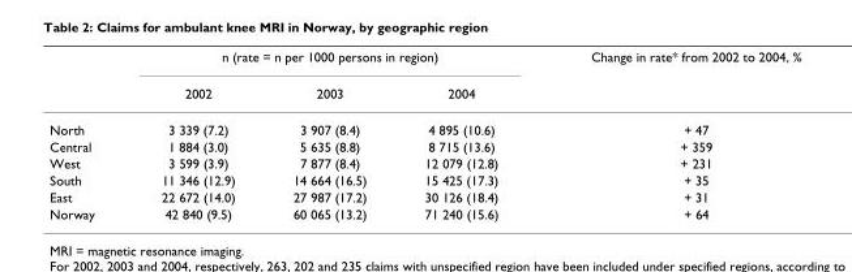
<table><thead><tr><td rowspan="2"></td><td colspan="3">n (rate = n per 1000 persons in region)</td><td rowspan="2">Change in rate* from 2002 to 2004, %</td></tr><tr><td>2002</td><td>2003</td><td>2004</td></tr></thead><tbody><tr><td>North</td><td>3 339 (7.2)</td><td>3 907 (8.4)</td><td>4 895 (10.6)</td><td>+ 47</td></tr><tr><td>Central</td><td>1 884 (3.0)</td><td>5 635 (8.8)</td><td>8 715 (13.6)</td><td>+ 359</td></tr><tr><td>West</td><td>3 599 (3.9)</td><td>7 877 (8.4)</td><td>12 079 (12.8)</td><td>+ 231</td></tr><tr><td>South</td><td>11 346 (12.9)</td><td>14 664 (16.5)</td><td>15 425 (17.3)</td><td>+ 35</td></tr><tr><td>East</td><td>22 672 (14.0)</td><td>27 987 (17.2)</td><td>30 126 (18.4)</td><td>+ 31</td></tr><tr><td>Norway</td><td>42 840 (9.5)</td><td>60 065 (13.2)</td><td>71 240 (15.6)</td><td>+ 64</td></tr></tbody></table>